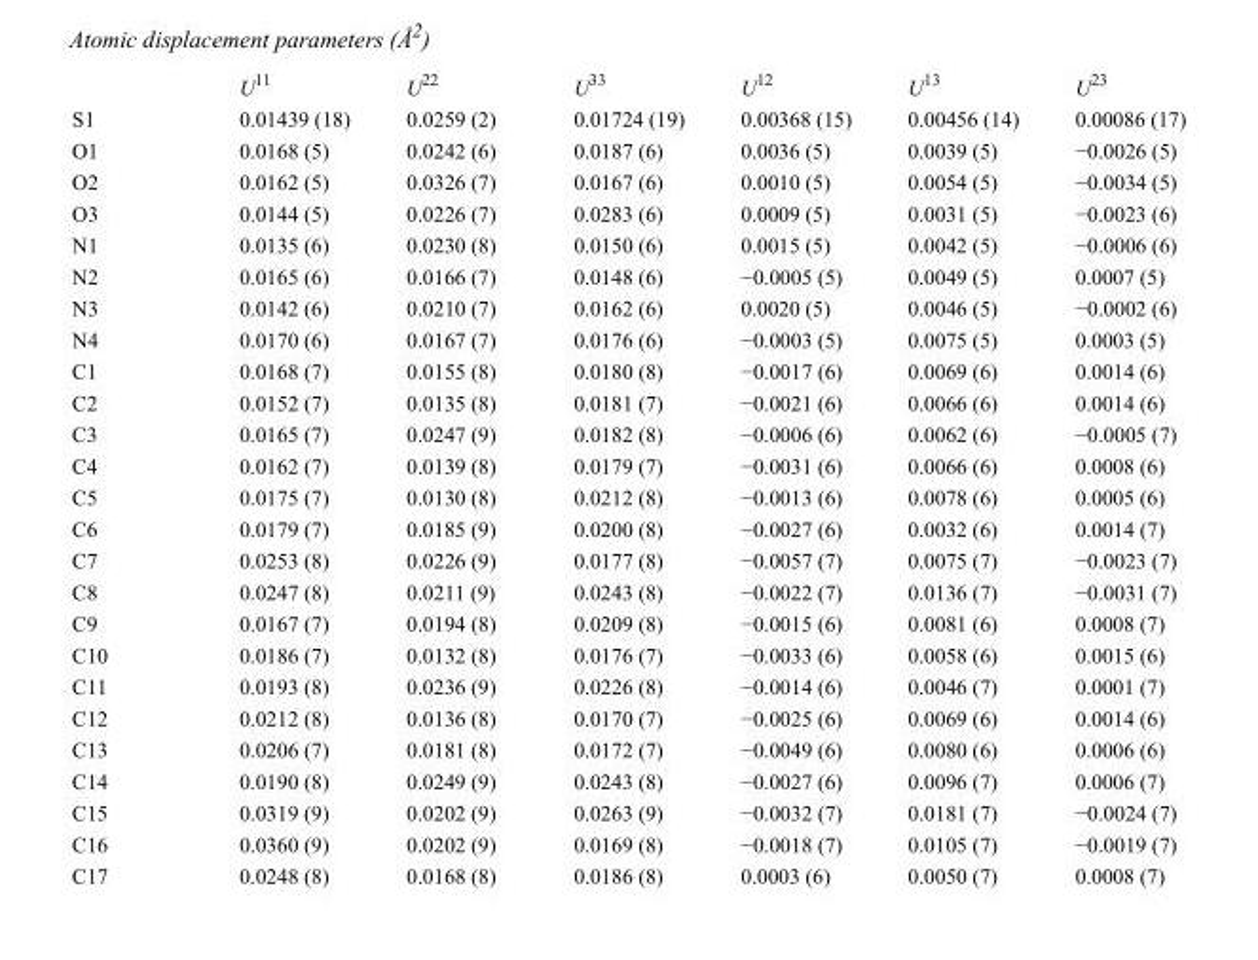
<table><thead><tr><td></td><td>U<sup>11</sup></td><td>U<sup>22</sup></td><td>U<sup>33</sup></td><td>U<sup>12</sup></td><td>U<sup>13</sup></td><td>U<sup>23</sup></td></tr></thead><tbody><tr><td>S1</td><td>0.01439 (18)</td><td>0.0259 (2)</td><td>0.01724 (19)</td><td>0.00368 (15)</td><td>0.00456 (14)</td><td>0.00086 (17)</td></tr><tr><td>O1</td><td>0.0168 (5)</td><td>0.0242 (6)</td><td>0.0187 (6)</td><td>0.0036 (5)</td><td>0.0039 (5)</td><td>−0.0026 (5)</td></tr><tr><td>O2</td><td>0.0162 (5)</td><td>0.0326 (7)</td><td>0.0167 (6)</td><td>0.0010 (5)</td><td>0.0054 (5)</td><td>−0.0034 (5)</td></tr><tr><td>O3</td><td>0.0144 (5)</td><td>0.0226 (7)</td><td>0.0283 (6)</td><td>0.0009 (5)</td><td>0.0031 (5)</td><td>−0.0023 (6)</td></tr><tr><td>N1</td><td>0.0135 (6)</td><td>0.0230 (8)</td><td>0.0150 (6)</td><td>0.0015 (5)</td><td>0.0042 (5)</td><td>−0.0006 (6)</td></tr><tr><td>N2</td><td>0.0165 (6)</td><td>0.0166 (7)</td><td>0.0148 (6)</td><td>−0.0005 (5)</td><td>0.0049 (5)</td><td>0.0007 (5)</td></tr><tr><td>N3</td><td>0.0142 (6)</td><td>0.0210 (7)</td><td>0.0162 (6)</td><td>0.0020 (5)</td><td>0.0046 (5)</td><td>−0.0002 (6)</td></tr><tr><td>N4</td><td>0.0170 (6)</td><td>0.0167 (7)</td><td>0.0176 (6)</td><td>−0.0003 (5)</td><td>0.0075 (5)</td><td>0.0003 (5)</td></tr><tr><td>C1</td><td>0.0168 (7)</td><td>0.0155 (8)</td><td>0.0180 (8)</td><td>−0.0017 (6)</td><td>0.0069 (6)</td><td>0.0014 (6)</td></tr><tr><td>C2</td><td>0.0152 (7)</td><td>0.0135 (8)</td><td>0.0181 (7)</td><td>−0.0021 (6)</td><td>0.0066 (6)</td><td>0.0014 (6)</td></tr><tr><td>C3</td><td>0.0165 (7)</td><td>0.0247 (9)</td><td>0.0182 (8)</td><td>−0.0006 (6)</td><td>0.0062 (6)</td><td>−0.0005 (7)</td></tr><tr><td>C4</td><td>0.0162 (7)</td><td>0.0139 (8)</td><td>0.0179 (7)</td><td>−0.0031 (6)</td><td>0.0066 (6)</td><td>0.0008 (6)</td></tr><tr><td>C5</td><td>0.0175 (7)</td><td>0.0130 (8)</td><td>0.0212 (8)</td><td>−0.0013 (6)</td><td>0.0078 (6)</td><td>0.0005 (6)</td></tr><tr><td>C6</td><td>0.0179 (7)</td><td>0.0185 (9)</td><td>0.0200 (8)</td><td>−0.0027 (6)</td><td>0.0032 (6)</td><td>0.0014 (7)</td></tr><tr><td>C7</td><td>0.0253 (8)</td><td>0.0226 (9)</td><td>0.0177 (8)</td><td>−0.0057 (7)</td><td>0.0075 (7)</td><td>−0.0023 (7)</td></tr><tr><td>C8</td><td>0.0247 (8)</td><td>0.0211 (9)</td><td>0.0243 (8)</td><td>−0.0022 (7)</td><td>0.0136 (7)</td><td>−0.0031 (7)</td></tr><tr><td>C9</td><td>0.0167 (7)</td><td>0.0194 (8)</td><td>0.0209 (8)</td><td>−0.0015 (6)</td><td>0.0081 (6)</td><td>0.0008 (7)</td></tr><tr><td>C10</td><td>0.0186 (7)</td><td>0.0132 (8)</td><td>0.0176 (7)</td><td>−0.0033 (6)</td><td>0.0058 (6)</td><td>0.0015 (6)</td></tr><tr><td>C11</td><td>0.0193 (8)</td><td>0.0236 (9)</td><td>0.0226 (8)</td><td>−0.0014 (6)</td><td>0.0046 (7)</td><td>0.0001 (7)</td></tr><tr><td>C12</td><td>0.0212 (8)</td><td>0.0136 (8)</td><td>0.0170 (7)</td><td>−0.0025 (6)</td><td>0.0069 (6)</td><td>0.0014 (6)</td></tr><tr><td>C13</td><td>0.0206 (7)</td><td>0.0181 (8)</td><td>0.0172 (7)</td><td>−0.0049 (6)</td><td>0.0080 (6)</td><td>0.0006 (6)</td></tr><tr><td>C14</td><td>0.0190 (8)</td><td>0.0249 (9)</td><td>0.0243 (8)</td><td>−0.0027 (6)</td><td>0.0096 (7)</td><td>0.0006 (7)</td></tr><tr><td>C15</td><td>0.0319 (9)</td><td>0.0202 (9)</td><td>0.0263 (9)</td><td>−0.0032 (7)</td><td>0.0181 (7)</td><td>−0.0024 (7)</td></tr><tr><td>C16</td><td>0.0360 (9)</td><td>0.0202 (9)</td><td>0.0169 (8)</td><td>−0.0018 (7)</td><td>0.0105 (7)</td><td>−0.0019 (7)</td></tr><tr><td>C17</td><td>0.0248 (8)</td><td>0.0168 (8)</td><td>0.0186 (8)</td><td>0.0003 (6)</td><td>0.0050 (7)</td><td>0.0008 (7)</td></tr></tbody></table>